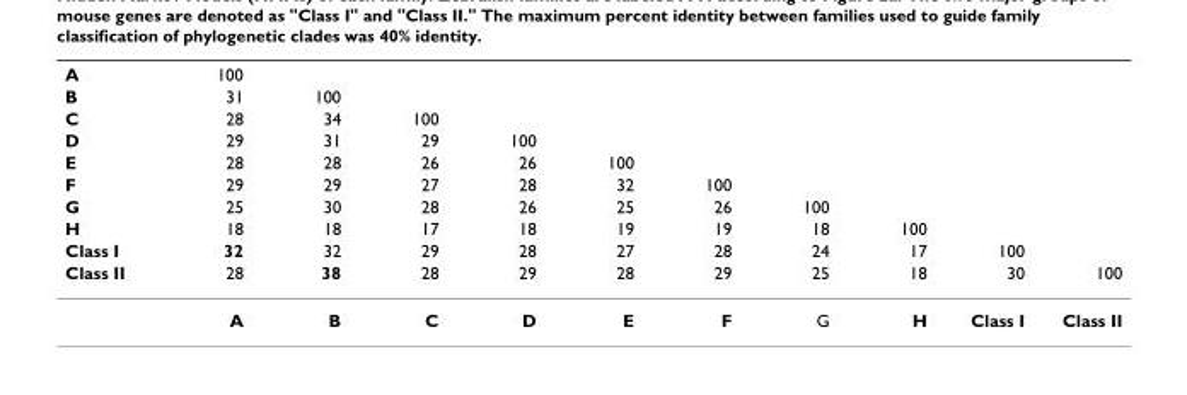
<table><thead><tr><td rowspan="10">A B C D E F G H Class I Class II</td><td rowspan="10">100 31 28 29 28 29 25 18 32 28</td><td rowspan="10">100 34 31 28 29 30 18 32 38</td><td rowspan="10">100 29 26 27 28 17 29 28</td><td rowspan="10">100 26 28 26 18 28 29</td><td rowspan="10">100 32 25 19 27 28</td><td rowspan="10">100 26 19 28 29</td><td rowspan="10">100 18 24 25</td><td rowspan="10">100 17 18</td><td rowspan="10">100 30</td><td rowspan="10">100</td></tr><tr></tr><tr></tr><tr></tr><tr></tr><tr></tr><tr></tr><tr></tr><tr></tr><tr></tr></thead><tbody><tr><td></td><td>A</td><td>B</td><td>C</td><td>D</td><td>E</td><td>F</td><td>G</td><td>H</td><td>Class I</td><td>Class II</td></tr></tbody></table>